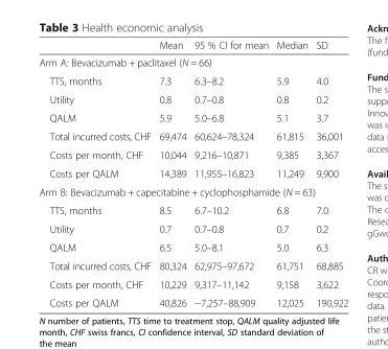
<table><thead><tr><td></td><td>Mean</td><td>95 % CI for mean</td><td>Median</td><td>SD</td></tr></thead><tbody><tr><td colspan="5">Arm A: Bevacizumab + paclitaxel (N = 66)</td></tr><tr><td>TTS, months</td><td>7.3</td><td>6.3–8.2</td><td>5.9</td><td>4.0</td></tr><tr><td>Utility</td><td>0.8</td><td>0.7–0.8</td><td>0.8</td><td>0.2</td></tr><tr><td>QALM</td><td>5.9</td><td>5.0–6.8</td><td>5.1</td><td>3.7</td></tr><tr><td>Total incurred costs, CHF</td><td>69,474</td><td>60,624–78,324</td><td>61,815</td><td>36,001</td></tr><tr><td>Costs per month, CHF</td><td>10,044</td><td>9,216–10,871</td><td>9,385</td><td>3,367</td></tr><tr><td>Costs per QALM</td><td>14,389</td><td>11,955–16,823</td><td>11,249</td><td>9,900</td></tr><tr><td colspan="5">Arm B: Bevacizumab + capecitabine + cyclophosphamide (N = 63)</td></tr><tr><td>TTS, months</td><td>8.5</td><td>6.7–10.2</td><td>6.8</td><td>7.0</td></tr><tr><td>Utility</td><td>0.7</td><td>0.7–0.8</td><td>0.7</td><td>0.2</td></tr><tr><td>QALM</td><td>6.5</td><td>5.0–8.1</td><td>5.0</td><td>6.3</td></tr><tr><td>Total incurred costs, CHF</td><td>80,324</td><td>62,975–97,672</td><td>61,751</td><td>68,885</td></tr><tr><td>Costs per month, CHF</td><td>10,229</td><td>9,317–11,142</td><td>9,158</td><td>3,622</td></tr><tr><td>Costs per QALM</td><td>40,826</td><td>−7,257–88,909</td><td>12,025</td><td>190,922</td></tr></tbody></table>